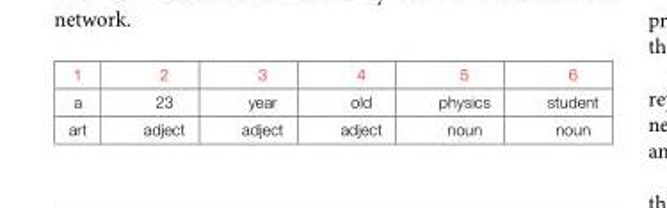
<table><tbody><tr><td>1</td><td>2</td><td>3</td><td>4</td><td>5</td><td>6</td></tr><tr><td>a</td><td>23</td><td>year</td><td>old</td><td>physics</td><td>student</td></tr><tr><td>art</td><td>adject</td><td>adject</td><td>adject</td><td>noun</td><td>noun</td></tr></tbody></table>